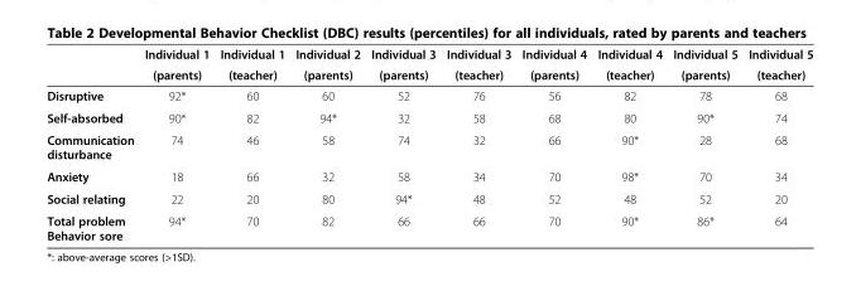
<table><thead><tr><td rowspan="2"></td><td rowspan="2">Individual 1 (parents)</td><td rowspan="2">Individual 1 (teacher)</td><td rowspan="2">Individual 2 (parents)</td><td rowspan="2">Individual 3 (parents)</td><td rowspan="2">Individual 3 (teacher)</td><td rowspan="2">Individual 4 (parents)</td><td rowspan="2">Individual 4 (teacher)</td><td rowspan="2">Individual 5 (parents)</td><td rowspan="2">Individual 5 (teacher)</td></tr><tr></tr></thead><tbody><tr><td>Disruptive</td><td>92*</td><td>60</td><td>60</td><td>52</td><td>76</td><td>56</td><td>82</td><td>78</td><td>68</td></tr><tr><td>Self-absorbed</td><td>90*</td><td>82</td><td>94*</td><td>32</td><td>58</td><td>68</td><td>80</td><td>90*</td><td>74</td></tr><tr><td>Communication disturbance</td><td>74</td><td>46</td><td>58</td><td>74</td><td>32</td><td>66</td><td>90*</td><td>28</td><td>68</td></tr><tr><td>Anxiety</td><td>18</td><td>66</td><td>32</td><td>58</td><td>34</td><td>70</td><td>98*</td><td>70</td><td>34</td></tr><tr><td>Social relating</td><td>22</td><td>20</td><td>80</td><td>94*</td><td>48</td><td>52</td><td>48</td><td>52</td><td>20</td></tr><tr><td>Total problem Behavior sore</td><td>94*</td><td>70</td><td>82</td><td>66</td><td>66</td><td>70</td><td>90*</td><td>86*</td><td>64</td></tr></tbody></table>